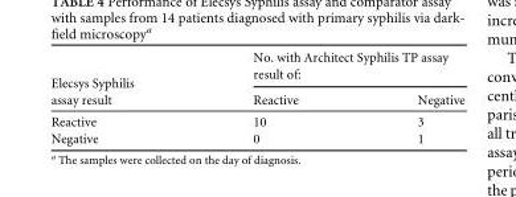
<table><thead><tr><td rowspan="2">Elecsys Syphilis assay result</td><td colspan="2">No. with Architect Syphilis TP assay result of:</td></tr><tr><td>Reactive</td><td>Negative</td></tr></thead><tbody><tr><td>Reactive</td><td>10</td><td>3</td></tr><tr><td>Negative</td><td>0</td><td>1</td></tr></tbody></table>